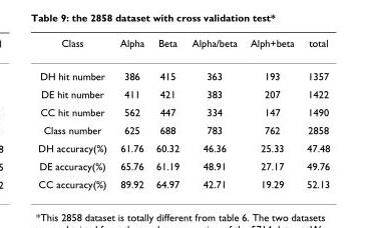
<table><thead><tr><td>Class</td><td>Alpha</td><td>Beta</td><td>Alpha/beta</td><td>Alph+beta</td><td>total</td></tr></thead><tbody><tr><td>DH hit number</td><td>386</td><td>415</td><td>363</td><td>193</td><td>1357</td></tr><tr><td>DE hit number</td><td>411</td><td>421</td><td>383</td><td>207</td><td>1422</td></tr><tr><td>CC hit number</td><td>562</td><td>447</td><td>334</td><td>147</td><td>1490</td></tr><tr><td>Class number</td><td>625</td><td>688</td><td>783</td><td>762</td><td>2858</td></tr><tr><td>DH accuracy(%)</td><td>61.76</td><td>60.32</td><td>46.36</td><td>25.33</td><td>47.48</td></tr><tr><td>DE accuracy(%)</td><td>65.76</td><td>61.19</td><td>48.91</td><td>27.17</td><td>49.76</td></tr><tr><td>CC accuracy(%)</td><td>89.92</td><td>64.97</td><td>42.71</td><td>19.29</td><td>52.13</td></tr></tbody></table>